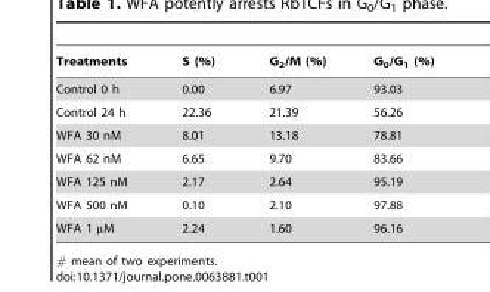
<table><thead><tr><td>Treatments</td><td>S (%)</td><td>G<sub>2</sub>/M (%)</td><td>G<sub>0</sub>/G<sub>1</sub> (%)</td></tr></thead><tbody><tr><td>Control 0 h</td><td>0.00</td><td>6.97</td><td>93.03</td></tr><tr><td>Control 24 h</td><td>22.36</td><td>21.39</td><td>56.26</td></tr><tr><td>WFA 30 nM</td><td>8.01</td><td>13.18</td><td>78.81</td></tr><tr><td>WFA 62 nM</td><td>6.65</td><td>9.70</td><td>83.66</td></tr><tr><td>WFA 125 nM</td><td>2.17</td><td>2.64</td><td>95.19</td></tr><tr><td>WFA 500 nM</td><td>0.10</td><td>2.10</td><td>97.88</td></tr><tr><td>WFA 1 µM</td><td>2.24</td><td>1.60</td><td>96.16</td></tr></tbody></table>